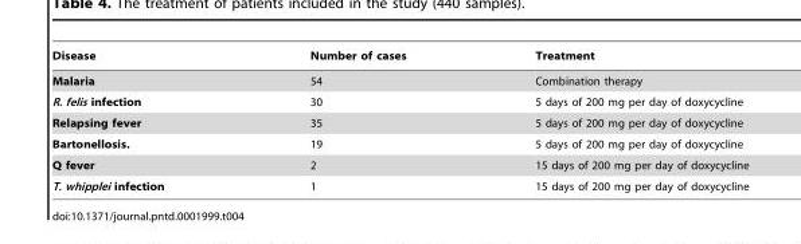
<table><thead><tr><td>Disease</td><td>Number of cases</td><td>Treatment</td></tr></thead><tbody><tr><td>Malaria</td><td>54</td><td>Combination therapy</td></tr><tr><td>R. felis infection</td><td>30</td><td>5 days of 200 mg per day of doxycycline</td></tr><tr><td>Relapsing fever</td><td>35</td><td>5 days of 200 mg per day of doxycycline</td></tr><tr><td>Bartonellosis.</td><td>19</td><td>5 days of 200 mg per day of doxycycline</td></tr><tr><td>Q fever</td><td>2</td><td>15 days of 200 mg per day of doxycycline</td></tr><tr><td>T. whipplei infection</td><td>1</td><td>15 days of 200 mg per day of doxycycline</td></tr></tbody></table>